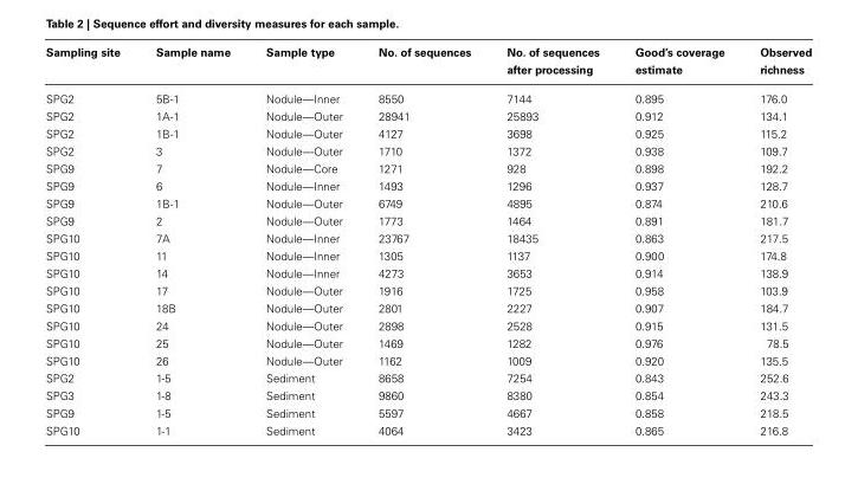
<table><thead><tr><td>Sampling site</td><td>Sample name</td><td>Sample type</td><td>No. of sequences</td><td>No. of sequences after processing</td><td>Good’s coverage estimate</td><td>Observed richness</td></tr></thead><tbody><tr><td>SPG2</td><td>5B-1</td><td>Nodule—Inner</td><td>8550</td><td>7144</td><td>0.895</td><td>176.0</td></tr><tr><td>SPG2</td><td>1A-1</td><td>Nodule—Outer</td><td>28941</td><td>25893</td><td>0.912</td><td>134.1</td></tr><tr><td>SPG2</td><td>1B-1</td><td>Nodule—Outer</td><td>4127</td><td>3698</td><td>0.925</td><td>115.2</td></tr><tr><td>SPG2</td><td>3</td><td>Nodule—Outer</td><td>1710</td><td>1372</td><td>0.938</td><td>109.7</td></tr><tr><td>SPG9</td><td>7</td><td>Nodule—Core</td><td>1271</td><td>928</td><td>0.898</td><td>192.2</td></tr><tr><td>SPG9</td><td>6</td><td>Nodule—Inner</td><td>1493</td><td>1296</td><td>0.937</td><td>128.7</td></tr><tr><td>SPG9</td><td>1B-1</td><td>Nodule—Outer</td><td>6749</td><td>4895</td><td>0.874</td><td>210.6</td></tr><tr><td>SPG9</td><td>2</td><td>Nodule—Outer</td><td>1773</td><td>1464</td><td>0.891</td><td>181.7</td></tr><tr><td>SPG10</td><td>7A</td><td>Nodule—Inner</td><td>23767</td><td>18435</td><td>0.863</td><td>217.5</td></tr><tr><td>SPG10</td><td>11</td><td>Nodule—Inner</td><td>1305</td><td>1137</td><td>0.900</td><td>174.8</td></tr><tr><td>SPG10</td><td>14</td><td>Nodule—Inner</td><td>4273</td><td>3653</td><td>0.914</td><td>138.9</td></tr><tr><td>SPG10</td><td>17</td><td>Nodule—Outer</td><td>1916</td><td>1725</td><td>0.958</td><td>103.9</td></tr><tr><td>SPG10</td><td>18B</td><td>Nodule—Outer</td><td>2801</td><td>2227</td><td>0.907</td><td>184.7</td></tr><tr><td>SPG10</td><td>24</td><td>Nodule—Outer</td><td>2898</td><td>2528</td><td>0.915</td><td>131.5</td></tr><tr><td>SPG10</td><td>25</td><td>Nodule—Outer</td><td>1469</td><td>1282</td><td>0.976</td><td>78.5</td></tr><tr><td>SPG10</td><td>26</td><td>Nodule—Outer</td><td>1162</td><td>1009</td><td>0.920</td><td>135.5</td></tr><tr><td>SPG2</td><td>1-5</td><td>Sediment</td><td>8658</td><td>7254</td><td>0.843</td><td>252.6</td></tr><tr><td>SPG3</td><td>1-8</td><td>Sediment</td><td>9860</td><td>8380</td><td>0.854</td><td>243.3</td></tr><tr><td>SPG9</td><td>1-5</td><td>Sediment</td><td>5597</td><td>4667</td><td>0.858</td><td>218.5</td></tr><tr><td>SPG10</td><td>1-1</td><td>Sediment</td><td>4064</td><td>3423</td><td>0.865</td><td>216.8</td></tr></tbody></table>